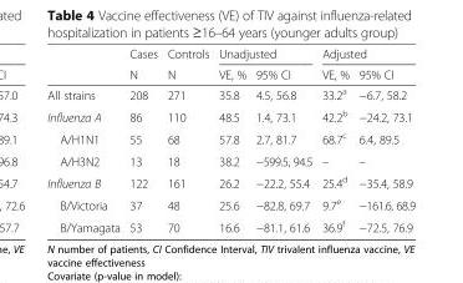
<table><thead><tr><td rowspan="2"></td><td rowspan="2">Cases N</td><td rowspan="2">Controls N</td><td colspan="2">Unadjusted</td><td colspan="2">Adjusted</td></tr><tr><td>VE, %</td><td>95% CI</td><td>VE, %</td><td>95% CI</td></tr></thead><tbody><tr><td>All strains</td><td>208</td><td>271</td><td>35.8</td><td>4.5, 56.8</td><td>33.2<sup>a</sup></td><td>−6.7, 58.2</td></tr><tr><td>Influenza A</td><td>86</td><td>110</td><td>48.5</td><td>1.4, 73.1</td><td>42.2<sup>b</sup></td><td>−24.2, 73.1</td></tr><tr><td>A/H1N1</td><td>55</td><td>68</td><td>57.8</td><td>2.7, 81.7</td><td>68.7<sup>c</sup></td><td>6.4, 89.5</td></tr><tr><td>A/H3N2</td><td>13</td><td>18</td><td>38.2</td><td>−599.5, 94.5</td><td>–</td><td>–</td></tr><tr><td>Influenza B</td><td>122</td><td>161</td><td>26.2</td><td>−22.2, 55.4</td><td>25.4<sup>d</sup></td><td>−35.4, 58.9</td></tr><tr><td>B/Victoria</td><td>37</td><td>48</td><td>25.6</td><td>−82.8, 69.7</td><td>9.7<sup>e</sup></td><td>−161.6, 68.9</td></tr><tr><td>B/Yamagata</td><td>53</td><td>70</td><td>16.6</td><td>−81.1, 61.6</td><td>36.9<sup>f</sup></td><td>−72.5, 76.9</td></tr></tbody></table>